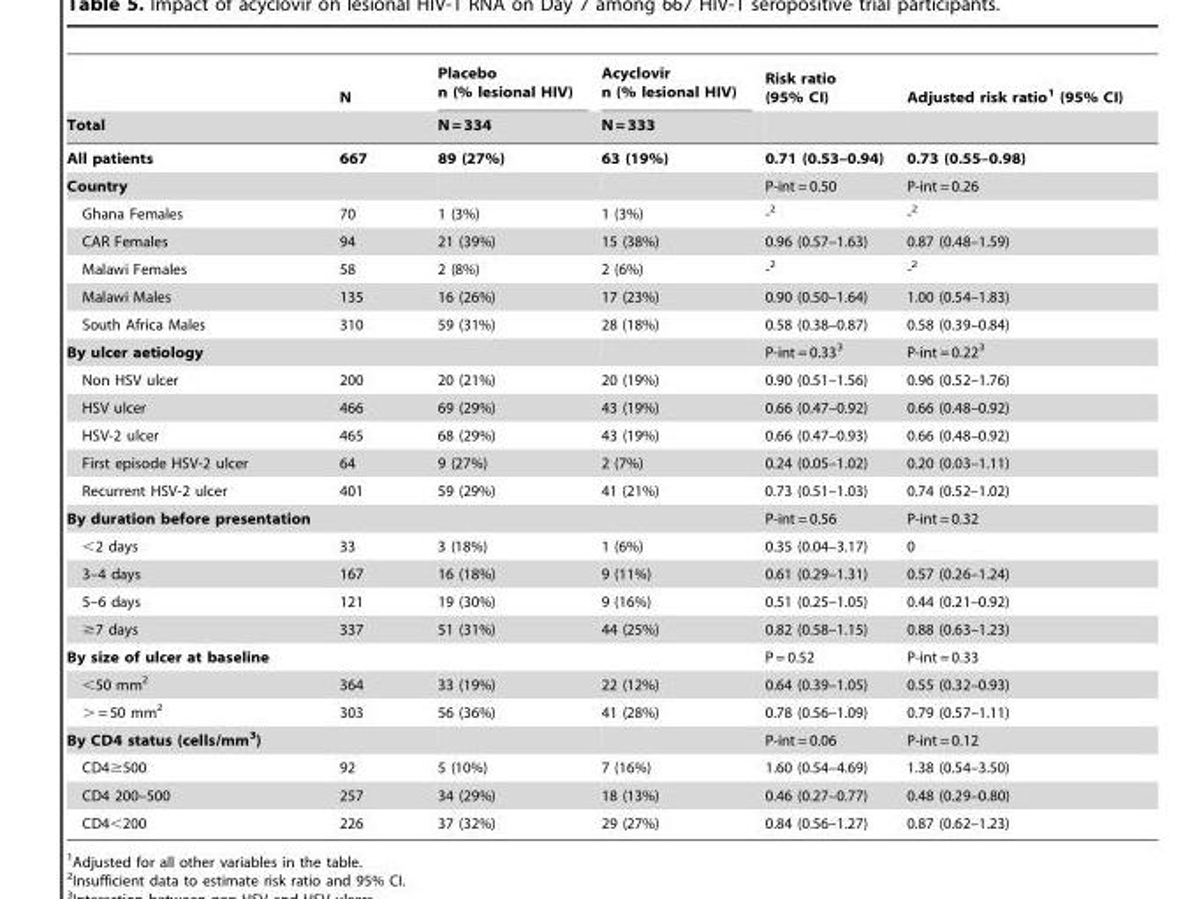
<table><thead><tr><td rowspan="2">Total</td><td rowspan="2">N</td><td rowspan="2">Placebo n (% lesional HIV) N = 334</td><td rowspan="2">Acyclovir n (% lesional HIV) N = 333</td><td rowspan="2">Risk ratio (95% CI)</td><td rowspan="2">Adjusted risk ratio<sup>1</sup> (95% CI)</td></tr><tr></tr></thead><tbody><tr><td>All patients</td><td>667</td><td>89 (27%)</td><td>63 (19%)</td><td>0.71 (0.53–0.94)</td><td>0.73 (0.55–0.98)</td></tr><tr><td>Country</td><td></td><td></td><td></td><td>P-int = 0.50</td><td>P-int = 0.26</td></tr><tr><td>Ghana Females</td><td>70</td><td>1 (3%)</td><td>1 (3%)</td><td>-2</td><td>-2</td></tr><tr><td>CAR Females</td><td>94</td><td>21 (39%)</td><td>15 (38%)</td><td>0.96 (0.57–1.63)</td><td>0.87 (0.48–1.59)</td></tr><tr><td>Malawi Females</td><td>58</td><td>2 (8%)</td><td>2 (6%)</td><td>-2</td><td>-2</td></tr><tr><td>Malawi Males</td><td>135</td><td>16 (26%)</td><td>17 (23%)</td><td>0.90 (0.50–1.64)</td><td>1.00 (0.54–1.83)</td></tr><tr><td>South Africa Males</td><td>310</td><td>59 (31%)</td><td>28 (18%)</td><td>0.58 (0.38–0.87)</td><td>0.58 (0.39–0.84)</td></tr><tr><td colspan="3">By ulcer aetiology</td><td></td><td>P-int = 0.33<sup>3</sup></td><td>P-int = 0.22<sup>3</sup></td></tr><tr><td>Non HSV ulcer</td><td>200</td><td>20 (21%)</td><td>20 (19%)</td><td>0.90 (0.51–1.56)</td><td>0.96 (0.52–1.76)</td></tr><tr><td>HSV ulcer</td><td>466</td><td>69 (29%)</td><td>43 (19%)</td><td>0.66 (0.47–0.92)</td><td>0.66 (0.48–0.92)</td></tr><tr><td>HSV-2 ulcer</td><td>465</td><td>68 (29%)</td><td>43 (19%)</td><td>0.66 (0.47–0.93)</td><td>0.66 (0.48–0.92)</td></tr><tr><td>First episode HSV-2 ulcer</td><td>64</td><td>9 (27%)</td><td>2 (7%)</td><td>0.24 (0.05–1.02)</td><td>0.20 (0.03–1.11)</td></tr><tr><td>Recurrent HSV-2 ulcer</td><td>401</td><td>59 (29%)</td><td>41 (21%)</td><td>0.73 (0.51–1.03)</td><td>0.74 (0.52–1.02)</td></tr><tr><td colspan="4">By duration before presentation</td><td>P-int = 0.56</td><td>P-int = 0.32</td></tr><tr><td>&lt;2 days</td><td>33</td><td>3 (18%)</td><td>1 (6%)</td><td>0.35 (0.04–3.17)</td><td>0</td></tr><tr><td>3–4 days</td><td>167</td><td>16 (18%)</td><td>9 (11%)</td><td>0.61 (0.29–1.31)</td><td>0.57 (0.26–1.24)</td></tr><tr><td>5–6 days</td><td>121</td><td>19 (30%)</td><td>9 (16%)</td><td>0.51 (0.25–1.05)</td><td>0.44 (0.21–0.92)</td></tr><tr><td>≥7 days</td><td>337</td><td>51 (31%)</td><td>44 (25%)</td><td>0.82 (0.58–1.15)</td><td>0.88 (0.63–1.23)</td></tr><tr><td colspan="3">By size of ulcer at baseline</td><td></td><td>P = 0.52</td><td>P-int = 0.33</td></tr><tr><td>&lt;50 mm<sup>2</sup></td><td>364</td><td>33 (19%)</td><td>22 (12%)</td><td>0.64 (0.39–1.05)</td><td>0.55 (0.32–0.93)</td></tr><tr><td>&gt; = 50 mm<sup>2</sup></td><td>303</td><td>56 (36%)</td><td>41 (28%)</td><td>0.78 (0.56–1.09)</td><td>0.79 (0.57–1.11)</td></tr><tr><td colspan="2">By CD4 status (cells/mm<sup>3</sup>)</td><td></td><td></td><td>P-int = 0.06</td><td>P-int = 0.12</td></tr><tr><td>CD4≥500</td><td>92</td><td>5 (10%)</td><td>7 (16%)</td><td>1.60 (0.54–4.69)</td><td>1.38 (0.54–3.50)</td></tr><tr><td>CD4 200–500</td><td>257</td><td>34 (29%)</td><td>18 (13%)</td><td>0.46 (0.27–0.77)</td><td>0.48 (0.29–0.80)</td></tr><tr><td>CD4&lt;200</td><td>226</td><td>37 (32%)</td><td>29 (27%)</td><td>0.84 (0.56–1.27)</td><td>0.87 (0.62–1.23)</td></tr></tbody></table>